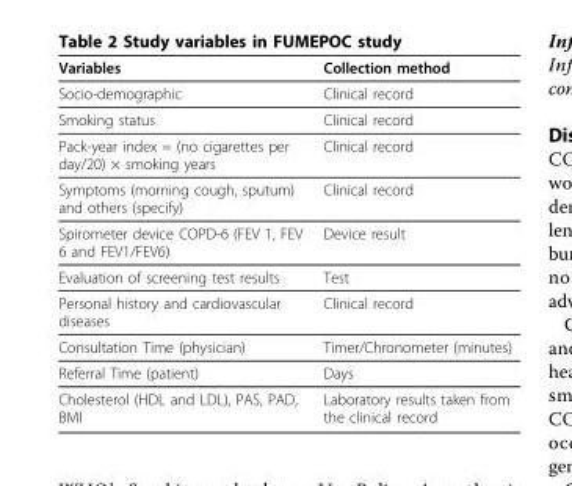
<table><thead><tr><td>Variables</td><td>Collection method</td></tr></thead><tbody><tr><td>Socio-demographic</td><td>Clinical record</td></tr><tr><td>Smoking status</td><td>Clinical record</td></tr><tr><td>Pack-year index = (no cigarettes per day/20) × smoking years</td><td>Clinical record</td></tr><tr><td>Symptoms (morning cough, sputum) and others (specify)</td><td>Clinical record</td></tr><tr><td>Spirometer device COPD-6 (FEV 1, FEV 6 and FEV1/FEV6)</td><td>Device result</td></tr><tr><td>Evaluation of screening test results</td><td>Test</td></tr><tr><td>Personal history and cardiovascular diseases</td><td>Clinical record</td></tr><tr><td>Consultation Time (physician)</td><td>Timer/Chronometer (minutes)</td></tr><tr><td>Referral Time (patient)</td><td>Days</td></tr><tr><td>Cholesterol (HDL and LDL), PAS, PAD, BMI</td><td>Laboratory results taken from the clinical record</td></tr></tbody></table>